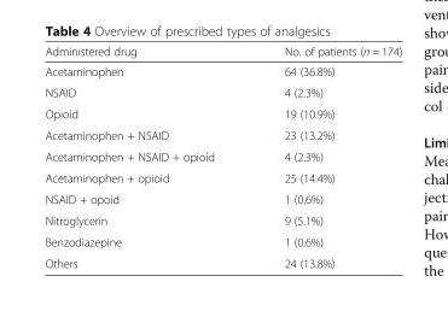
<table><thead><tr><td>Administered drug</td><td>No. of patients (n = 174)</td></tr></thead><tbody><tr><td>Acetaminophen</td><td>64 (36.8%)</td></tr><tr><td>NSAID</td><td>4 (2.3%)</td></tr><tr><td>Opioid</td><td>19 (10.9%)</td></tr><tr><td>Acetaminophen + NSAID</td><td>23 (13.2%)</td></tr><tr><td>Acetaminophen + NSAID + opioid</td><td>4 (2.3%)</td></tr><tr><td>Acetaminophen + opioid</td><td>25 (14.4%)</td></tr><tr><td>NSAID + opoid</td><td>1 (0.6%)</td></tr><tr><td>Nitroglycerin</td><td>9 (5.1%)</td></tr><tr><td>Benzodiazepine</td><td>1 (0.6%)</td></tr><tr><td>Others</td><td>24 (13.8%)</td></tr></tbody></table>